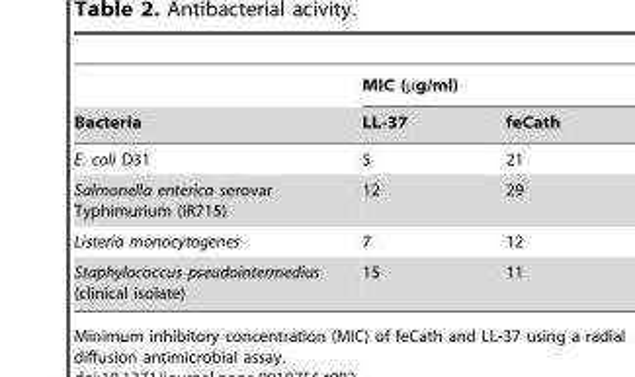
<table><thead><tr><td rowspan="2">Bacteria</td><td colspan="2">MIC (µg/ml)</td></tr><tr><td>LL-37</td><td>feCath</td></tr></thead><tbody><tr><td>E. coli D31</td><td>5</td><td>21</td></tr><tr><td>Salmonella enterica serovar Typhimurium (IR715)</td><td>12</td><td>29</td></tr><tr><td>Listeria monocytogenes</td><td>7</td><td>12</td></tr><tr><td>Staphylococcus pseudointermedius (clinical isolate)</td><td>15</td><td>11</td></tr></tbody></table>